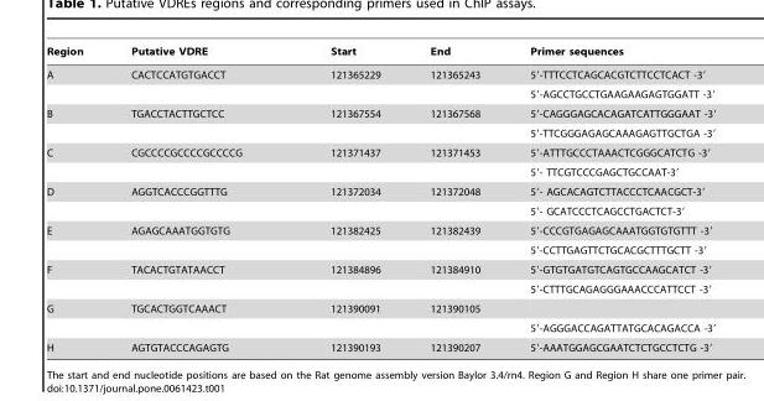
<table><thead><tr><td>Region</td><td>Putative VDRE</td><td>Start</td><td>End</td><td>Primer sequences</td></tr></thead><tbody><tr><td rowspan="2">A</td><td>CACTCCATGTGACCT</td><td>121365229</td><td>121365243</td><td>5′-TTTCCTCAGCACGTCTTCCTCACT -3′</td></tr><tr><td></td><td></td><td></td><td>5′-AGCCTGCCTGAAGAAGAGTGGATT -3′</td></tr><tr><td rowspan="2">B</td><td>TGACCTACTTGCTCC</td><td>121367554</td><td>121367568</td><td>5′-CAGGGAGCACAGATCATTGGGAAT -3′</td></tr><tr><td></td><td></td><td></td><td>5′-TTCGGGAGAGCAAAGAGTTGCTGA -3′</td></tr><tr><td rowspan="2">C</td><td>CGCCCCGCCCCGCCCCG</td><td>121371437</td><td>121371453</td><td>5′-ATTTGCCCTAAACTCGGGCATCTG -3′</td></tr><tr><td></td><td></td><td></td><td>5′- TTCGTCCCGAGCTGCCAAT-3′</td></tr><tr><td rowspan="2">D</td><td>AGGTCACCCGGTTTG</td><td>121372034</td><td>121372048</td><td>5′- AGCACAGTCTTACCCTCAACGCT-3′</td></tr><tr><td></td><td></td><td></td><td>5′- GCATCCCTCAGCCTGACTCT-3′</td></tr><tr><td rowspan="2">E</td><td>AGAGCAAATGGTGTG</td><td>121382425</td><td>121382439</td><td>5′-CCCGTGAGAGCAAATGGTGTGTTT -3′</td></tr><tr><td></td><td></td><td></td><td>5′-CCTTGAGTTCTGCACGCTTTGCTT -3′</td></tr><tr><td rowspan="2">F</td><td>TACACTGTATAACCT</td><td>121384896</td><td>121384910</td><td>5′-GTGTGATGTCAGTGCCAAGCATCT -3′</td></tr><tr><td></td><td></td><td></td><td>5′-CTTTGCAGAGGGAAACCCATTCCT -3′</td></tr><tr><td rowspan="2">G</td><td>TGCACTGGTCAAACT</td><td>121390091</td><td>121390105</td><td></td></tr><tr><td></td><td></td><td></td><td>5′-AGGGACCAGATTATGCACAGACCA -3′</td></tr><tr><td>H</td><td>AGTGTACCCAGAGTG</td><td>121390193</td><td>121390207</td><td>5′-AAATGGAGCGAATCTCTGCCTCTG -3′</td></tr></tbody></table>